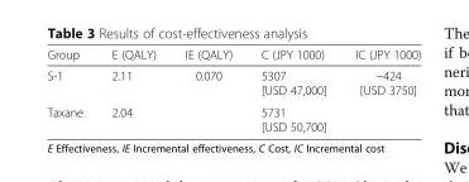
<table><thead><tr><td>Group</td><td>E (QALY)</td><td>IE (QALY)</td><td>C (JPY 1000)</td><td>IC (JPY 1000)</td></tr></thead><tbody><tr><td>S-1</td><td>2.11</td><td>0.070</td><td>5307 [USD 47,000]</td><td>−424 [USD 3750]</td></tr><tr><td>Taxane</td><td>2.04</td><td></td><td>5731 [USD 50,700]</td><td></td></tr></tbody></table>